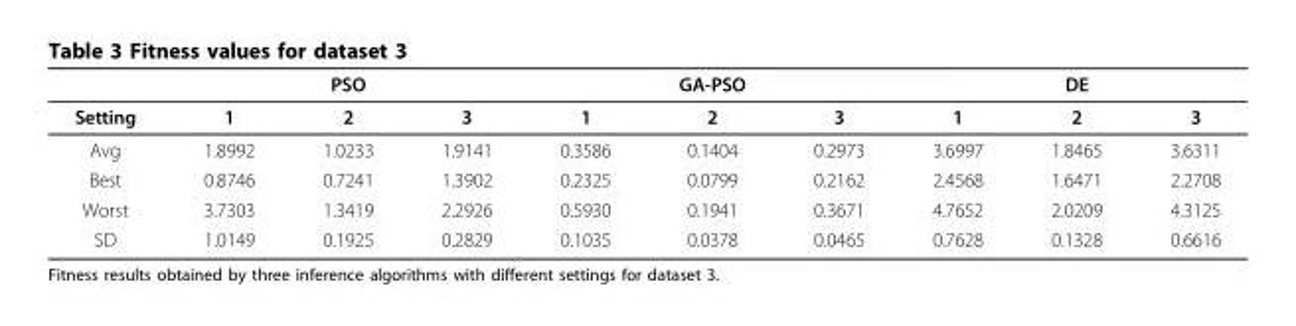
<table><thead><tr><td></td><td></td><td>PSO</td><td></td><td></td><td>GA-PSO</td><td></td><td></td><td>DE</td><td></td></tr></thead><tbody><tr><td>Setting</td><td>1</td><td>2</td><td>3</td><td>1</td><td>2</td><td>3</td><td>1</td><td>2</td><td>3</td></tr><tr><td>Avg</td><td>1.8992</td><td>1.0233</td><td>1.9141</td><td>0.3586</td><td>0.1404</td><td>0.2973</td><td>3.6997</td><td>1.8465</td><td>3.6311</td></tr><tr><td>Best</td><td>0.8746</td><td>0.7241</td><td>1.3902</td><td>0.2325</td><td>0.0799</td><td>0.2162</td><td>2.4568</td><td>1.6471</td><td>2.2708</td></tr><tr><td>Worst</td><td>3.7303</td><td>1.3419</td><td>2.2926</td><td>0.5930</td><td>0.1941</td><td>0.3671</td><td>4.7652</td><td>2.0209</td><td>4.3125</td></tr><tr><td>SD</td><td>1.0149</td><td>0.1925</td><td>0.2829</td><td>0.1035</td><td>0.0378</td><td>0.0465</td><td>0.7628</td><td>0.1328</td><td>0.6616</td></tr></tbody></table>